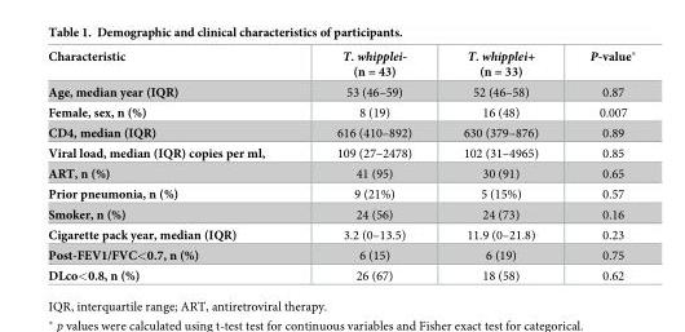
<table><thead><tr><td>Characteristic</td><td>T. whipplei- (n = 43)</td><td>T. whipplei+ (n = 33)</td><td>P-value*</td></tr></thead><tbody><tr><td>Age, median year (IQR)</td><td>53 (46–59)</td><td>52 (46–58)</td><td>0.87</td></tr><tr><td>Female, sex, n (%)</td><td>8 (19)</td><td>16 (48)</td><td>0.007</td></tr><tr><td>CD4, median (IQR)</td><td>616 (410–892)</td><td>630 (379–876)</td><td>0.89</td></tr><tr><td>Viral load, median (IQR) copies per ml,</td><td>109 (27–2478)</td><td>102 (31–4965)</td><td>0.85</td></tr><tr><td>ART, n (%)</td><td>41 (95)</td><td>30 (91)</td><td>0.65</td></tr><tr><td>Prior pneumonia, n (%)</td><td>9 (21%)</td><td>5 (15%)</td><td>0.57</td></tr><tr><td>Smoker, n (%)</td><td>24 (56)</td><td>24 (73)</td><td>0.16</td></tr><tr><td>Cigarette pack year, median (IQR)</td><td>3.2 (0–13.5)</td><td>11.9 (0–21.8)</td><td>0.23</td></tr><tr><td>Post-FEV1/FVC&lt;0.7, n (%)</td><td>6 (15)</td><td>6 (19)</td><td>0.75</td></tr><tr><td>DLco&lt;0.8, n (%)</td><td>26 (67)</td><td>18 (58)</td><td>0.62</td></tr></tbody></table>